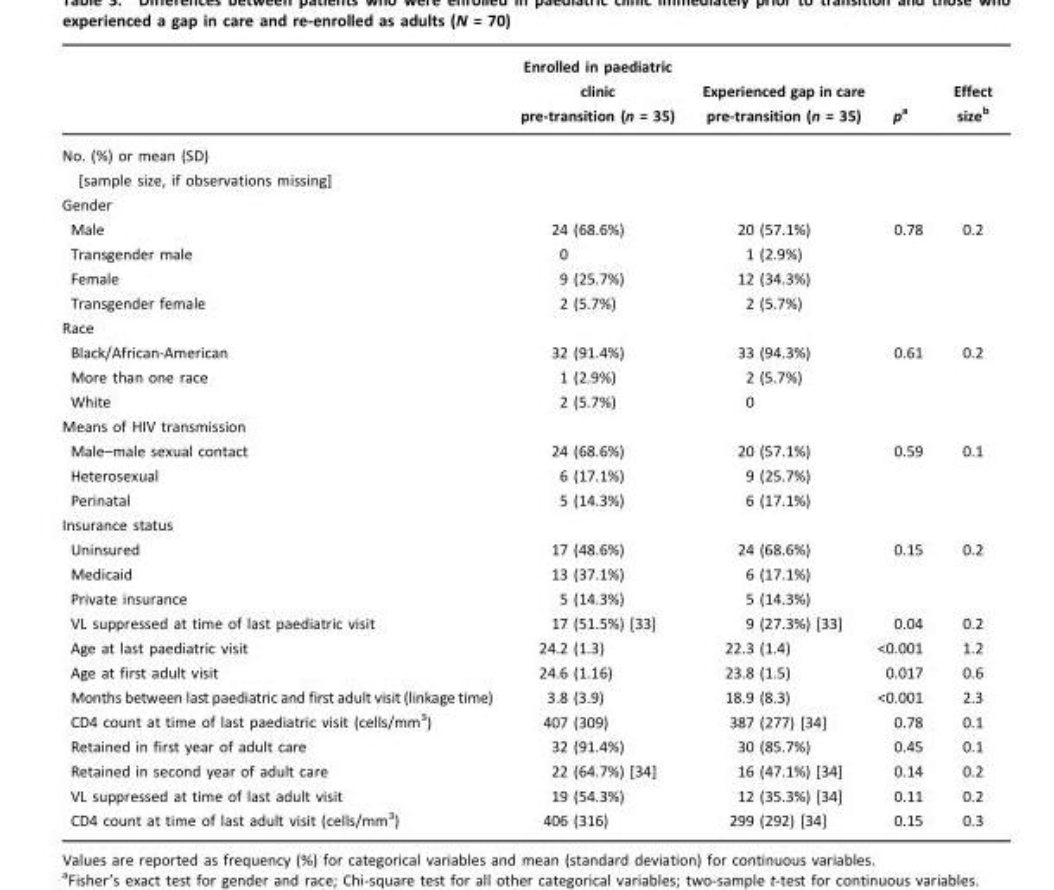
<table><thead><tr><td></td><td>Enrolled in paediatric clinic pre-transition (n = 35)</td><td>Experienced gap in care pre-transition (n = 35)</td><td>p<sup>a</sup></td><td>Effect size<sup>b</sup></td></tr></thead><tbody><tr><td colspan="5">No. (%) or mean (SD) [sample size, if observations missing]</td></tr><tr><td colspan="5">Gender</td></tr><tr><td>Male</td><td>24 (68.6%)</td><td>20 (57.1%)</td><td>0.78</td><td>0.2</td></tr><tr><td>Transgender male</td><td>0</td><td>1 (2.9%)</td><td></td><td></td></tr><tr><td>Female</td><td>9 (25.7%)</td><td>12 (34.3%)</td><td></td><td></td></tr><tr><td>Transgender female</td><td>2 (5.7%)</td><td>2 (5.7%)</td><td></td><td></td></tr><tr><td colspan="5">Race</td></tr><tr><td>Black/African-American</td><td>32 (91.4%)</td><td>33 (94.3%)</td><td>0.61</td><td>0.2</td></tr><tr><td>More than one race</td><td>1 (2.9%)</td><td>2 (5.7%)</td><td></td><td></td></tr><tr><td>White</td><td>2 (5.7%)</td><td>0</td><td></td><td></td></tr><tr><td colspan="5">Means of HIV transmission</td></tr><tr><td>Male–male sexual contact</td><td>24 (68.6%)</td><td>20 (57.1%)</td><td>0.59</td><td>0.1</td></tr><tr><td>Heterosexual</td><td>6 (17.1%)</td><td>9 (25.7%)</td><td></td><td></td></tr><tr><td>Perinatal</td><td>5 (14.3%)</td><td>6 (17.1%)</td><td></td><td></td></tr><tr><td colspan="5">Insurance status</td></tr><tr><td>Uninsured</td><td>17 (48.6%)</td><td>24 (68.6%)</td><td>0.15</td><td>0.2</td></tr><tr><td>Medicaid</td><td>13 (37.1%)</td><td>6 (17.1%)</td><td></td><td></td></tr><tr><td>Private insurance</td><td>5 (14.3%)</td><td>5 (14.3%)</td><td></td><td></td></tr><tr><td>VL suppressed at time of last paediatric visit</td><td>17 (51.5%) [33]</td><td>9 (27.3%) [33]</td><td>0.04</td><td>0.2</td></tr><tr><td>Age at last paediatric visit</td><td>24.2 (1.3)</td><td>22.3 (1.4)</td><td>&lt;0.001</td><td>1.2</td></tr><tr><td>Age at first adult visit</td><td>24.6 (1.16)</td><td>23.8 (1.5)</td><td>0.017</td><td>0.6</td></tr><tr><td>Months between last paediatric and first adult visit (linkage time)</td><td>3.8 (3.9)</td><td>18.9 (8.3)</td><td>&lt;0.001</td><td>2.3</td></tr><tr><td>CD4 count at time of last paediatric visit (cells/mm<sup>3</sup>)</td><td>407 (309)</td><td>387 (277) [34]</td><td>0.78</td><td>0.1</td></tr><tr><td>Retained in first year of adult care</td><td>32 (91.4%)</td><td>30 (85.7%)</td><td>0.45</td><td>0.1</td></tr><tr><td>Retained in second year of adult care</td><td>22 (64.7%) [34]</td><td>16 (47.1%) [34]</td><td>0.14</td><td>0.2</td></tr><tr><td>VL suppressed at time of last adult visit</td><td>19 (54.3%)</td><td>12 (35.3%) [34]</td><td>0.11</td><td>0.2</td></tr><tr><td>CD4 count at time of last adult visit (cells/mm<sup>3</sup>)</td><td>406 (316)</td><td>299 (292) [34]</td><td>0.15</td><td>0.3</td></tr></tbody></table>